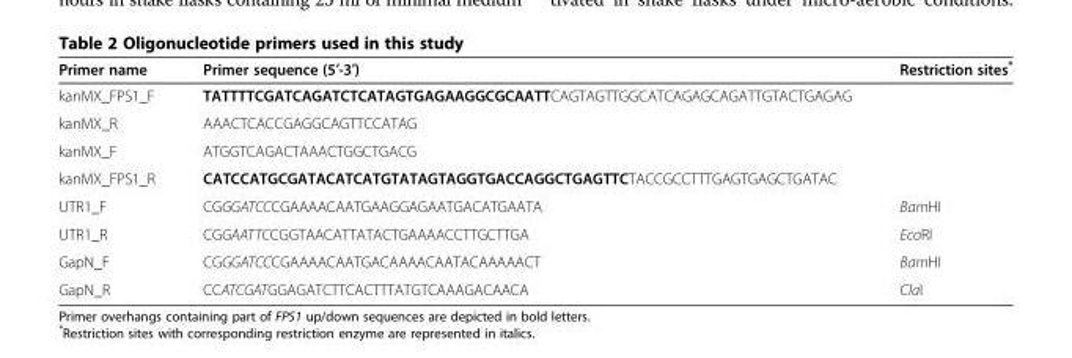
<table><thead><tr><td>Primer name</td><td>Primer sequence (5′-3′)</td><td>Restriction sites*</td></tr></thead><tbody><tr><td>kanMX_FPS1_F</td><td>TATTTTCGATCAGATCTCATAGTGAGAAGGCGCAATTCAGTAGTTGGCATCAGAGCAGATTGTACTGAGAG</td><td></td></tr><tr><td>kanMX_R</td><td>AAACTCACCGAGGCAGTTCCATAG</td><td></td></tr><tr><td>kanMX_F</td><td>ATGGTCAGACTAAACTGGCTGACG</td><td></td></tr><tr><td>kanMX_FPS1_R</td><td>CATCCATGCGATACATCATGTATAGTAGGTGACCAGGCTGAGTTCTACCGCCTTTGAGTGAGCTGATAC</td><td></td></tr><tr><td>UTR1_F</td><td>CGGGATCCCGAAAACAATGAAGGAGAATGACATGAATA</td><td>BamHI</td></tr><tr><td>UTR1_R</td><td>CGGAATTCCGGTAACATTATACTGAAAACCTTGCTTGA</td><td>EcoRI</td></tr><tr><td>GapN_F</td><td>CGGGATCCCGAAAACAATGACAAAACAATACAAAAACT</td><td>BamHI</td></tr><tr><td>GapN_R</td><td>CCATCGATGGAGATCTTCACTTTATGTCAAAGACAACA</td><td>ClaI</td></tr></tbody></table>